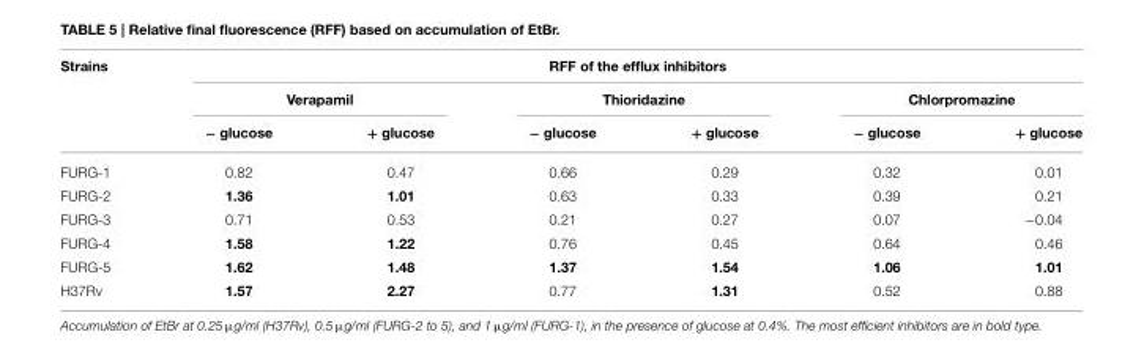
<table><thead><tr><td rowspan="3">Strains</td><td colspan="6">RFF of the efflux inhibitors</td></tr><tr><td colspan="2">Verapamil</td><td colspan="2">Thioridazine</td><td colspan="2">Chlorpromazine</td></tr><tr><td>− glucose</td><td>+ glucose</td><td>− glucose</td><td>+ glucose</td><td>− glucose</td><td>+ glucose</td></tr></thead><tbody><tr><td>FURG-1</td><td>0.82</td><td>0.47</td><td>0.66</td><td>0.29</td><td>0.32</td><td>0.01</td></tr><tr><td>FURG-2</td><td>1.36</td><td>1.01</td><td>0.63</td><td>0.33</td><td>0.39</td><td>0.21</td></tr><tr><td>FURG-3</td><td>0.71</td><td>0.53</td><td>0.21</td><td>0.27</td><td>0.07</td><td>−0.04</td></tr><tr><td>FURG-4</td><td>1.58</td><td>1.22</td><td>0.76</td><td>0.45</td><td>0.64</td><td>0.46</td></tr><tr><td>FURG-5</td><td>1.62</td><td>1.48</td><td>1.37</td><td>1.54</td><td>1.06</td><td>1.01</td></tr><tr><td>H37Rv</td><td>1.57</td><td>2.27</td><td>0.77</td><td>1.31</td><td>0.52</td><td>0.88</td></tr></tbody></table>